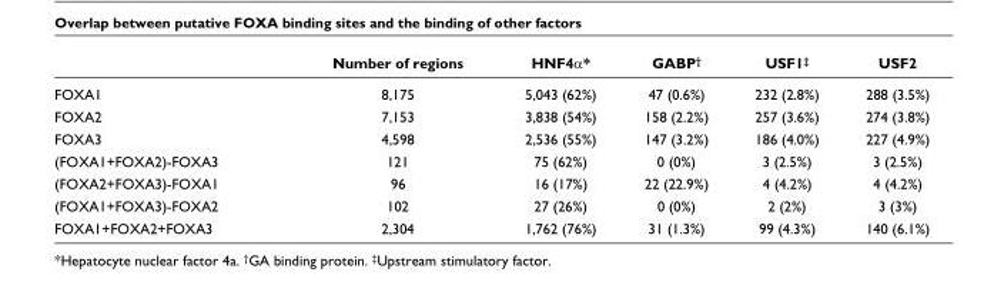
<table><thead><tr><td></td><td>Number of regions</td><td>HNF4α*</td><td>GABP<sup>†</sup></td><td>USF1<sup>‡</sup></td><td>USF2</td></tr></thead><tbody><tr><td>FOXA1</td><td>8,175</td><td>5,043 (62%)</td><td>47 (0.6%)</td><td>232 (2.8%)</td><td>288 (3.5%)</td></tr><tr><td>FOXA2</td><td>7,153</td><td>3,838 (54%)</td><td>158 (2.2%)</td><td>257 (3.6%)</td><td>274 (3.8%)</td></tr><tr><td>FOXA3</td><td>4,598</td><td>2,536 (55%)</td><td>147 (3.2%)</td><td>186 (4.0%)</td><td>227 (4.9%)</td></tr><tr><td>(FOXA1+FOXA2)-FOXA3</td><td>121</td><td>75 (62%)</td><td>0 (0%)</td><td>3 (2.5%)</td><td>3 (2.5%)</td></tr><tr><td>(FOXA2+FOXA3)-FOXA1</td><td>96</td><td>16 (17%)</td><td>22 (22.9%)</td><td>4 (4.2%)</td><td>4 (4.2%)</td></tr><tr><td>(FOXA1+FOXA3)-FOXA2</td><td>102</td><td>27 (26%)</td><td>0 (0%)</td><td>2 (2%)</td><td>3 (3%)</td></tr><tr><td>FOXA1+FOXA2+FOXA3</td><td>2,304</td><td>1,762 (76%)</td><td>31 (1.3%)</td><td>99 (4.3%)</td><td>140 (6.1%)</td></tr></tbody></table>